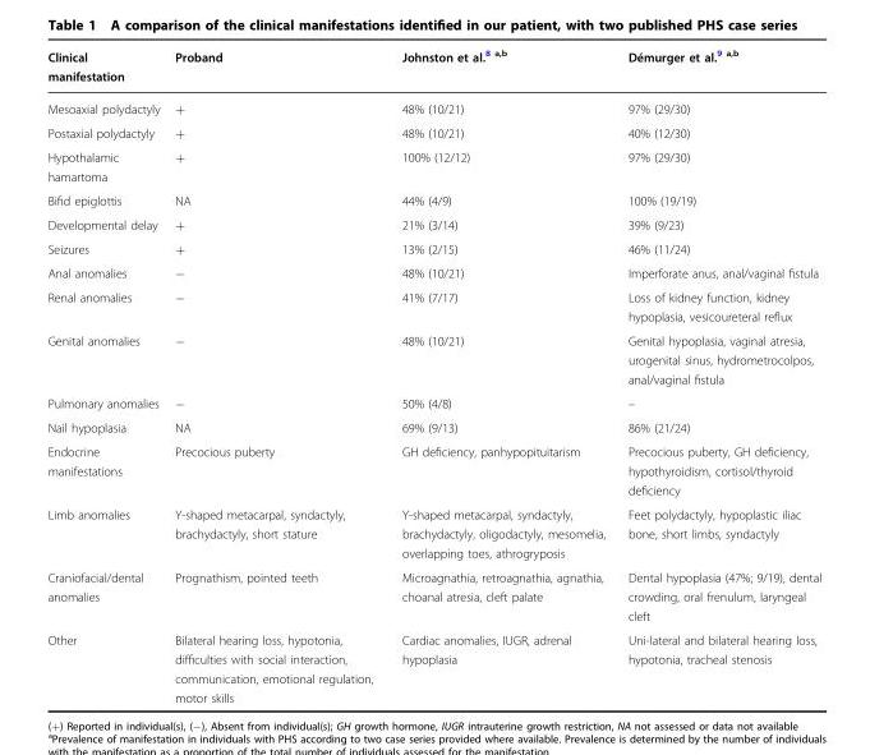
<table><thead><tr><td>Clinical manifestation</td><td>Proband</td><td>Johnston et al.<sup>8 a,b</sup></td><td>Démurger et al.<sup>9 a,b</sup></td></tr></thead><tbody><tr><td>Mesoaxial polydactyly</td><td>+</td><td>48% (10/21)</td><td>97% (29/30)</td></tr><tr><td>Postaxial polydactyly</td><td>+</td><td>48% (10/21)</td><td>40% (12/30)</td></tr><tr><td>Hypothalamic hamartoma</td><td>+</td><td>100% (12/12)</td><td>97% (29/30)</td></tr><tr><td>Bifid epiglottis</td><td>NA</td><td>44% (4/9)</td><td>100% (19/19)</td></tr><tr><td>Developmental delay</td><td>+</td><td>21% (3/14)</td><td>39% (9/23)</td></tr><tr><td>Seizures</td><td>+</td><td>13% (2/15)</td><td>46% (11/24)</td></tr><tr><td>Anal anomalies</td><td>−</td><td>48% (10/21)</td><td>Imperforate anus, anal/vaginal fistula</td></tr><tr><td>Renal anomalies</td><td>−</td><td>41% (7/17)</td><td>Loss of kidney function, kidney hypoplasia, vesicoureteral reflux</td></tr><tr><td>Genital anomalies</td><td>−</td><td>48% (10/21)</td><td>Genital hypoplasia, vaginal atresia, urogenital sinus, hydrometrocolpos, anal/vaginal fistula</td></tr><tr><td>Pulmonary anomalies</td><td>−</td><td>50% (4/8)</td><td>–</td></tr><tr><td>Nail hypoplasia</td><td>NA</td><td>69% (9/13)</td><td>86% (21/24)</td></tr><tr><td>Endocrine manifestations</td><td>Precocious puberty</td><td>GH deficiency, panhypopituitarism</td><td>Precocious puberty, GH deficiency, hypothyroidism, cortisol/thyroid deficiency</td></tr><tr><td>Limb anomalies</td><td>Y-shaped metacarpal, syndactyly, brachydactyly, short stature</td><td>Y-shaped metacarpal, syndactyly, brachydactyly, oligodactyly, mesomelia, overlapping toes, athrogryposis</td><td>Feet polydactyly, hypoplastic iliac bone, short limbs, syndactyly</td></tr><tr><td>Craniofacial/dental anomalies</td><td>Prognathism, pointed teeth</td><td>Microagnathia, retroagnathia, agnathia, choanal atresia, cleft palate</td><td>Dental hypoplasia (47%; 9/19), dental crowding, oral frenulum, laryngeal cleft</td></tr><tr><td>Other</td><td>Bilateral hearing loss, hypotonia, difficulties with social interaction, communication, emotional regulation, motor skills</td><td>Cardiac anomalies, IUGR, adrenal hypoplasia</td><td>Uni-lateral and bilateral hearing loss, hypotonia, tracheal stenosis</td></tr></tbody></table>